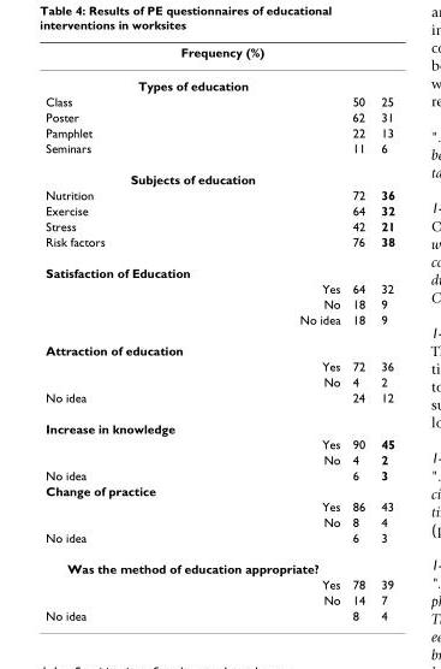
<table><thead><tr><td colspan="3">Frequency (%)</td></tr><tr><td>Types of education</td><td></td><td></td></tr></thead><tbody><tr><td>Class</td><td>50</td><td>25</td></tr><tr><td>Poster</td><td>62</td><td>31</td></tr><tr><td>Pamphlet</td><td>22</td><td>13</td></tr><tr><td>Seminars</td><td>11</td><td>6</td></tr><tr><td colspan="3">Subjects of education</td></tr><tr><td>Nutrition</td><td>72</td><td>36</td></tr><tr><td>Exercise</td><td>64</td><td>32</td></tr><tr><td>Stress</td><td>42</td><td>21</td></tr><tr><td>Risk factors</td><td>76</td><td>38</td></tr><tr><td colspan="3">Satisfaction of Education</td></tr><tr><td>Yes</td><td>64</td><td>32</td></tr><tr><td>No</td><td>18</td><td>9</td></tr><tr><td>No idea</td><td>18</td><td>9</td></tr><tr><td colspan="3">Attraction of education</td></tr><tr><td>Yes</td><td>72</td><td>36</td></tr><tr><td>No</td><td>4</td><td>2</td></tr><tr><td>No idea</td><td>24</td><td>12</td></tr><tr><td colspan="3">Increase in knowledge</td></tr><tr><td>Yes</td><td>90</td><td>45</td></tr><tr><td>No</td><td>4</td><td>2</td></tr><tr><td>No idea</td><td>6</td><td>3</td></tr><tr><td colspan="3">Change of practice</td></tr><tr><td>Yes</td><td>86</td><td>43</td></tr><tr><td>No</td><td>8</td><td>4</td></tr><tr><td>No idea</td><td>6</td><td>3</td></tr><tr><td colspan="3">Was the method of education appropriate?</td></tr><tr><td>Yes</td><td>78</td><td>39</td></tr><tr><td>No</td><td>14</td><td>7</td></tr><tr><td>No idea</td><td>8</td><td>4</td></tr></tbody></table>